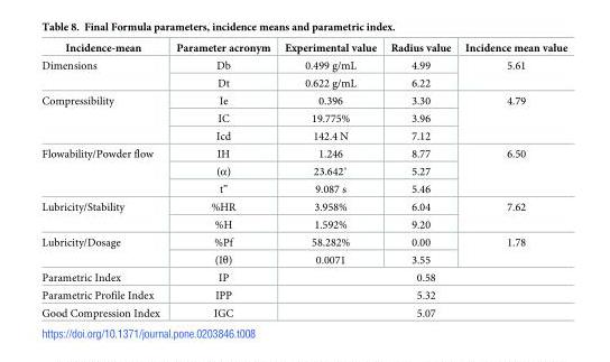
<table><thead><tr><td>Incidence-mean</td><td>Parameter acronym</td><td>Experimental value</td><td>Radius value</td><td>Incidence mean value</td></tr></thead><tbody><tr><td rowspan="2">Dimensions</td><td>Db</td><td>0.499 g/mL</td><td>4.99</td><td rowspan="2">5.61</td></tr><tr><td>Dt</td><td>0.622 g/mL</td><td>6.22</td></tr><tr><td rowspan="3">Compressibility</td><td>Ie</td><td>0.396</td><td>3.30</td><td rowspan="3">4.79</td></tr><tr><td>IC</td><td>19.775%</td><td>3.96</td></tr><tr><td>Icd</td><td>142.4 N</td><td>7.12</td></tr><tr><td rowspan="3">Flowability/Powder flow</td><td>IH</td><td>1.246</td><td>8.77</td><td rowspan="3">6.50</td></tr><tr><td>(α)</td><td>23.642˚</td><td>5.27</td></tr><tr><td>t”</td><td>9.087 s</td><td>5.46</td></tr><tr><td rowspan="2">Lubricity/Stability</td><td>%HR</td><td>3.958%</td><td>6.04</td><td rowspan="2">7.62</td></tr><tr><td>%H</td><td>1.592%</td><td>9.20</td></tr><tr><td rowspan="2">Lubricity/Dosage</td><td>%Pf</td><td>58.282%</td><td>0.00</td><td rowspan="2">1.78</td></tr><tr><td>(Iθ)</td><td>0.0071</td><td>3.55</td></tr><tr><td>Parametric Index</td><td>IP</td><td colspan="3">0.58</td></tr><tr><td>Parametric Profile Index</td><td>IPP</td><td colspan="3">5.32</td></tr><tr><td>Good Compression Index</td><td>IGC</td><td colspan="3">5.07</td></tr></tbody></table>